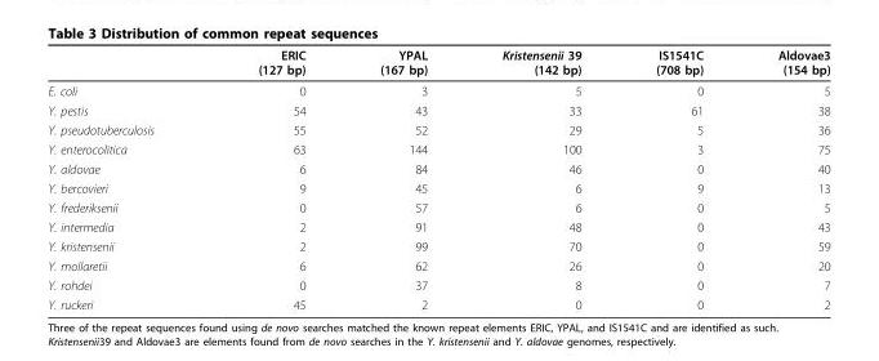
<table><thead><tr><td></td><td>ERIC (127 bp)</td><td>YPAL (167 bp)</td><td>Kristensenii 39 (142 bp)</td><td>IS1541C (708 bp)</td><td>Aldovae3 (154 bp)</td></tr></thead><tbody><tr><td>E. coli</td><td>0</td><td>3</td><td>5</td><td>0</td><td>5</td></tr><tr><td>Y. pestis</td><td>54</td><td>43</td><td>33</td><td>61</td><td>38</td></tr><tr><td>Y. pseudotuberculosis</td><td>55</td><td>52</td><td>29</td><td>5</td><td>36</td></tr><tr><td>Y. enterocolitica</td><td>63</td><td>144</td><td>100</td><td>3</td><td>75</td></tr><tr><td>Y. aldovae</td><td>6</td><td>84</td><td>46</td><td>0</td><td>40</td></tr><tr><td>Y. bercovieri</td><td>9</td><td>45</td><td>6</td><td>9</td><td>13</td></tr><tr><td>Y. frederiksenii</td><td>0</td><td>57</td><td>6</td><td>0</td><td>5</td></tr><tr><td>Y. intermedia</td><td>2</td><td>91</td><td>48</td><td>0</td><td>43</td></tr><tr><td>Y. kristensenii</td><td>2</td><td>99</td><td>70</td><td>0</td><td>59</td></tr><tr><td>Y. mollaretii</td><td>6</td><td>62</td><td>26</td><td>0</td><td>20</td></tr><tr><td>Y. rohdei</td><td>0</td><td>37</td><td>8</td><td>0</td><td>7</td></tr><tr><td>Y. ruckeri</td><td>45</td><td>2</td><td>0</td><td>0</td><td>2</td></tr></tbody></table>